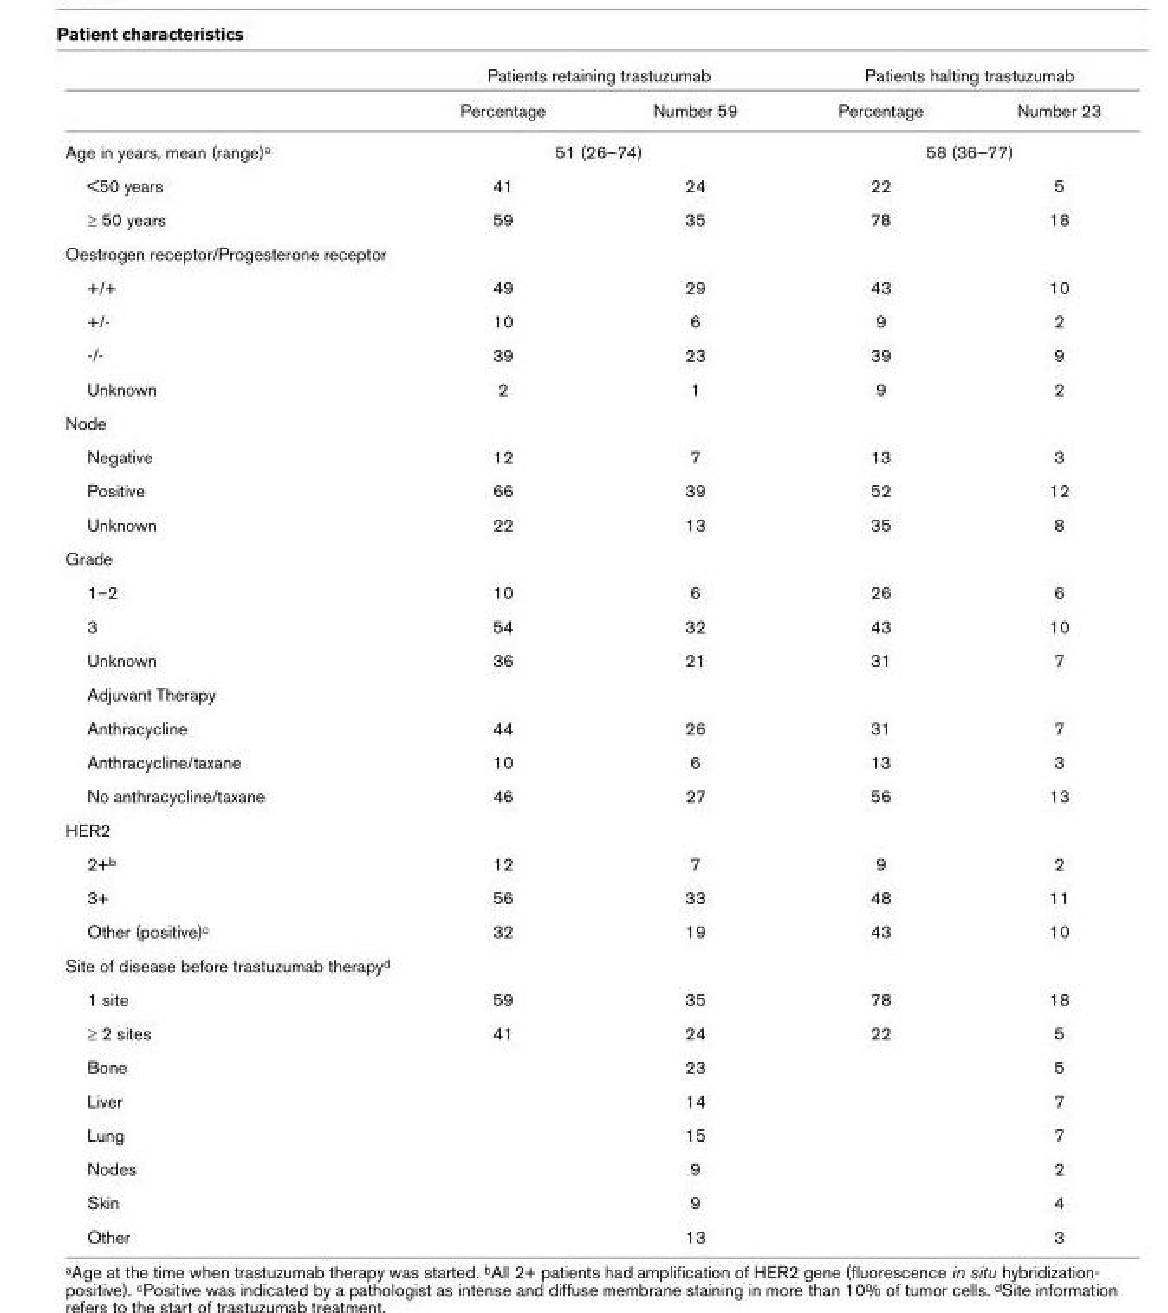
<table><thead><tr><td rowspan="2"></td><td colspan="2">Patients retaining trastuzumab</td><td colspan="2">Patients halting trastuzumab</td></tr><tr><td>Percentage</td><td>Number 59</td><td>Percentage</td><td>Number 23</td></tr></thead><tbody><tr><td>Age in years, mean (range)<sup>a</sup></td><td colspan="2">51 (26–74)</td><td colspan="2">58 (36–77)</td></tr><tr><td>&lt;50 years</td><td>41</td><td>24</td><td>22</td><td>5</td></tr><tr><td>≥ 50 years</td><td>59</td><td>35</td><td>78</td><td>18</td></tr><tr><td colspan="5">Oestrogen receptor/Progesterone receptor</td></tr><tr><td>+/+</td><td>49</td><td>29</td><td>43</td><td>10</td></tr><tr><td>+/-</td><td>10</td><td>6</td><td>9</td><td>2</td></tr><tr><td>-/-</td><td>39</td><td>23</td><td>39</td><td>9</td></tr><tr><td>Unknown</td><td>2</td><td>1</td><td>9</td><td>2</td></tr><tr><td colspan="5">Node</td></tr><tr><td>Negative</td><td>12</td><td>7</td><td>13</td><td>3</td></tr><tr><td>Positive</td><td>66</td><td>39</td><td>52</td><td>12</td></tr><tr><td>Unknown</td><td>22</td><td>13</td><td>35</td><td>8</td></tr><tr><td colspan="5">Grade</td></tr><tr><td>1–2</td><td>10</td><td>6</td><td>26</td><td>6</td></tr><tr><td>3</td><td>54</td><td>32</td><td>43</td><td>10</td></tr><tr><td>Unknown</td><td>36</td><td>21</td><td>31</td><td>7</td></tr><tr><td colspan="5">Adjuvant Therapy</td></tr><tr><td>Anthracycline</td><td>44</td><td>26</td><td>31</td><td>7</td></tr><tr><td>Anthracycline/taxane</td><td>10</td><td>6</td><td>13</td><td>3</td></tr><tr><td>No anthracycline/taxane</td><td>46</td><td>27</td><td>56</td><td>13</td></tr><tr><td colspan="5">HER2</td></tr><tr><td>2+<sup>b</sup></td><td>12</td><td>7</td><td>9</td><td>2</td></tr><tr><td>3+</td><td>56</td><td>33</td><td>48</td><td>11</td></tr><tr><td>Other (positive)<sup>c</sup></td><td>32</td><td>19</td><td>43</td><td>10</td></tr><tr><td colspan="5">Site of disease before trastuzumab therapy<sup>d</sup></td></tr><tr><td>1 site</td><td>59</td><td>35</td><td>78</td><td>18</td></tr><tr><td>≥ 2 sites</td><td>41</td><td>24</td><td>22</td><td>5</td></tr><tr><td>Bone</td><td></td><td>23</td><td></td><td>5</td></tr><tr><td>Liver</td><td></td><td>14</td><td></td><td>7</td></tr><tr><td>Lung</td><td></td><td>15</td><td></td><td>7</td></tr><tr><td>Nodes</td><td></td><td>9</td><td></td><td>2</td></tr><tr><td>Skin</td><td></td><td>9</td><td></td><td>4</td></tr><tr><td>Other</td><td></td><td>13</td><td></td><td>3</td></tr></tbody></table>